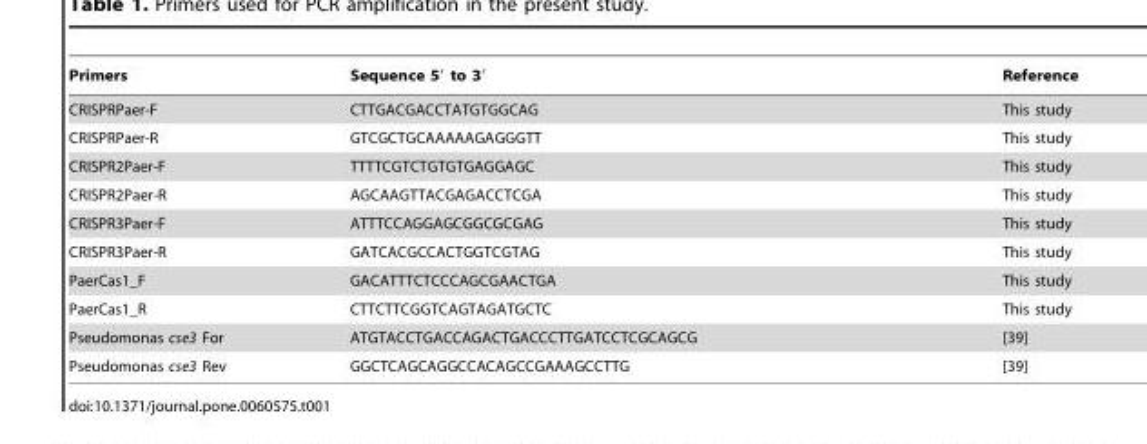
<table><thead><tr><td>Primers</td><td>Sequence 5′ to 3′</td><td>Reference</td></tr></thead><tbody><tr><td>CRISPRPaer-F</td><td>CTTGACGACCTATGTGGCAG</td><td>This study</td></tr><tr><td>CRISPRPaer-R</td><td>GTCGCTGCAAAAAGAGGGTT</td><td>This study</td></tr><tr><td>CRISPR2Paer-F</td><td>TTTTCGTCTGTGTGAGGAGC</td><td>This study</td></tr><tr><td>CRISPR2Paer-R</td><td>AGCAAGTTACGAGACCTCGA</td><td>This study</td></tr><tr><td>CRISPR3Paer-F</td><td>ATTTCCAGGAGCGGCGCGAG</td><td>This study</td></tr><tr><td>CRISPR3Paer-R</td><td>GATCACGCCACTGGTCGTAG</td><td>This study</td></tr><tr><td>PaerCas1_F</td><td>GACATTTCTCCCAGCGAACTGA</td><td>This study</td></tr><tr><td>PaerCas1_R</td><td>CTTCTTCGGTCAGTAGATGCTC</td><td>This study</td></tr><tr><td>Pseudomonas cse3 For</td><td>ATGTACCTGACCAGACTGACCCTTGATCCTCGCAGCG</td><td>[39]</td></tr><tr><td>Pseudomonas cse3 Rev</td><td>GGCTCAGCAGGCCACAGCCGAAAGCCTTG</td><td>[39]</td></tr></tbody></table>